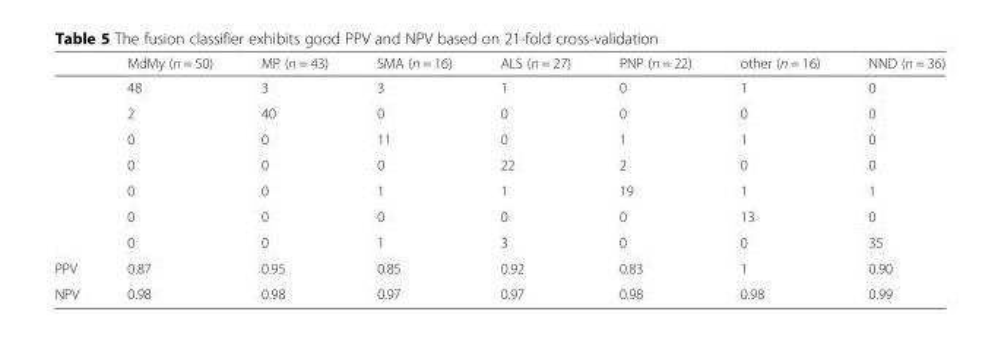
<table><thead><tr><td></td><td>MdMy (n = 50)</td><td>MP (n = 43)</td><td>SMA (n = 16)</td><td>ALS (n = 27)</td><td>PNP (n = 22)</td><td>other (n = 16)</td><td>NND (n = 36)</td></tr></thead><tbody><tr><td></td><td>48</td><td>3</td><td>3</td><td>1</td><td>0</td><td>1</td><td>0</td></tr><tr><td></td><td>2</td><td>40</td><td>0</td><td>0</td><td>0</td><td>0</td><td>0</td></tr><tr><td></td><td>0</td><td>0</td><td>11</td><td>0</td><td>1</td><td>1</td><td>0</td></tr><tr><td></td><td>0</td><td>0</td><td>0</td><td>22</td><td>2</td><td>0</td><td>0</td></tr><tr><td></td><td>0</td><td>0</td><td>1</td><td>1</td><td>19</td><td>1</td><td>1</td></tr><tr><td></td><td>0</td><td>0</td><td>0</td><td>0</td><td>0</td><td>13</td><td>0</td></tr><tr><td></td><td>0</td><td>0</td><td>1</td><td>3</td><td>0</td><td>0</td><td>35</td></tr><tr><td>PPV</td><td>0.87</td><td>0.95</td><td>0.85</td><td>0.92</td><td>0.83</td><td>1</td><td>0.90</td></tr><tr><td>NPV</td><td>0.98</td><td>0.98</td><td>0.97</td><td>0.97</td><td>0.98</td><td>0.98</td><td>0.99</td></tr></tbody></table>